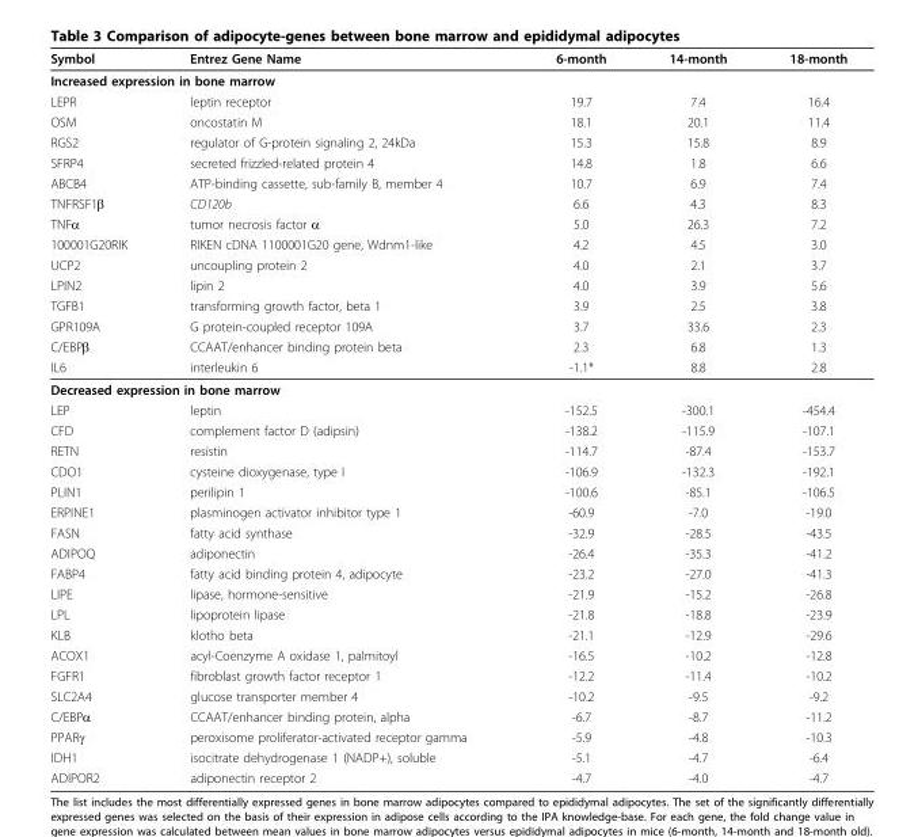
<table><thead><tr><td>Symbol</td><td>Entrez Gene Name</td><td>6-month</td><td>14-month</td><td>18-month</td></tr></thead><tbody><tr><td colspan="5">Increased expression in bone marrow</td></tr><tr><td>LEPR</td><td>leptin receptor</td><td>19.7</td><td>7.4</td><td>16.4</td></tr><tr><td>OSM</td><td>oncostatin M</td><td>18.1</td><td>20.1</td><td>11.4</td></tr><tr><td>RGS2</td><td>regulator of G-protein signaling 2, 24kDa</td><td>15.3</td><td>15.8</td><td>8.9</td></tr><tr><td>SFRP4</td><td>secreted frizzled-related protein 4</td><td>14.8</td><td>1.8</td><td>6.6</td></tr><tr><td>ABCB4</td><td>ATP-binding cassette, sub-family B, member 4</td><td>10.7</td><td>6.9</td><td>7.4</td></tr><tr><td>TNFRSF1β</td><td>CD120b</td><td>6.6</td><td>4.3</td><td>8.3</td></tr><tr><td>TNFα</td><td>tumor necrosis factor α</td><td>5.0</td><td>26.3</td><td>7.2</td></tr><tr><td>100001G20RIK</td><td>RIKEN cDNA 1100001G20 gene, Wdnm1-like</td><td>4.2</td><td>4.5</td><td>3.0</td></tr><tr><td>UCP2</td><td>uncoupling protein 2</td><td>4.0</td><td>2.1</td><td>3.7</td></tr><tr><td>LPIN2</td><td>lipin 2</td><td>4.0</td><td>3.9</td><td>5.6</td></tr><tr><td>TGFB1</td><td>transforming growth factor, beta 1</td><td>3.9</td><td>2.5</td><td>3.8</td></tr><tr><td>GPR109A</td><td>G protein-coupled receptor 109A</td><td>3.7</td><td>33.6</td><td>2.3</td></tr><tr><td>C/EBPβ</td><td>CCAAT/enhancer binding protein beta</td><td>2.3</td><td>6.8</td><td>1.3</td></tr><tr><td>IL6</td><td>interleukin 6</td><td>-1.1*</td><td>8.8</td><td>2.8</td></tr><tr><td colspan="5">Decreased expression in bone marrow</td></tr><tr><td>LEP</td><td>leptin</td><td>-152.5</td><td>-300.1</td><td>-454.4</td></tr><tr><td>CFD</td><td>complement factor D (adipsin)</td><td>-138.2</td><td>-115.9</td><td>-107.1</td></tr><tr><td>RETN</td><td>resistin</td><td>-114.7</td><td>-87.4</td><td>-153.7</td></tr><tr><td>CDO1</td><td>cysteine dioxygenase, type I</td><td>-106.9</td><td>-132.3</td><td>-192.1</td></tr><tr><td>PLIN1</td><td>perilipin 1</td><td>-100.6</td><td>-85.1</td><td>-106.5</td></tr><tr><td>ERPINE1</td><td>plasminogen activator inhibitor type 1</td><td>-60.9</td><td>-7.0</td><td>-19.0</td></tr><tr><td>FASN</td><td>fatty acid synthase</td><td>-32.9</td><td>-28.5</td><td>-43.5</td></tr><tr><td>ADIPOQ</td><td>adiponectin</td><td>-26.4</td><td>-35.3</td><td>-41.2</td></tr><tr><td>FABP4</td><td>fatty acid binding protein 4, adipocyte</td><td>-23.2</td><td>-27.0</td><td>-41.3</td></tr><tr><td>LIPE</td><td>lipase, hormone-sensitive</td><td>-21.9</td><td>-15.2</td><td>-26.8</td></tr><tr><td>LPL</td><td>lipoprotein lipase</td><td>-21.8</td><td>-18.8</td><td>-23.9</td></tr><tr><td>KLB</td><td>klotho beta</td><td>-21.1</td><td>-12.9</td><td>-29.6</td></tr><tr><td>ACOX1</td><td>acyl-Coenzyme A oxidase 1, palmitoyl</td><td>-16.5</td><td>-10.2</td><td>-12.8</td></tr><tr><td>FGFR1</td><td>fibroblast growth factor receptor 1</td><td>-12.2</td><td>-11.4</td><td>-10.2</td></tr><tr><td>SLC2A4</td><td>glucose transporter member 4</td><td>-10.2</td><td>-9.5</td><td>-9.2</td></tr><tr><td>C/EBPα</td><td>CCAAT/enhancer binding protein, alpha</td><td>-6.7</td><td>-8.7</td><td>-11.2</td></tr><tr><td>PPARγ</td><td>peroxisome proliferator-activated receptor gamma</td><td>-5.9</td><td>-4.8</td><td>-10.3</td></tr><tr><td>IDH1</td><td>isocitrate dehydrogenase 1 (NADP+), soluble</td><td>-5.1</td><td>-4.7</td><td>-6.4</td></tr><tr><td>ADIPOR2</td><td>adiponectin receptor 2</td><td>-4.7</td><td>-4.0</td><td>-4.7</td></tr></tbody></table>